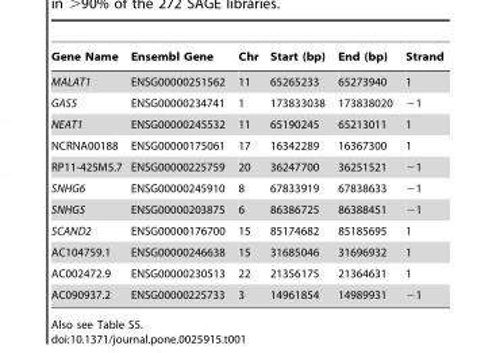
<table><thead><tr><td>Gene Name</td><td>Ensembl Gene</td><td>Chr</td><td>Start (bp)</td><td>End (bp)</td><td>Strand</td></tr></thead><tbody><tr><td>MALAT1</td><td>ENSG00000251562</td><td>11</td><td>65265233</td><td>65273940</td><td>1</td></tr><tr><td>GAS5</td><td>ENSG00000234741</td><td>1</td><td>173833038</td><td>173838020</td><td>−1</td></tr><tr><td>NEAT1</td><td>ENSG00000245532</td><td>11</td><td>65190245</td><td>65213011</td><td>1</td></tr><tr><td>NCRNA00188</td><td>ENSG00000175061</td><td>17</td><td>16342289</td><td>16367300</td><td>1</td></tr><tr><td>RP11-425M5.7</td><td>ENSG00000225759</td><td>20</td><td>36247700</td><td>36251521</td><td>−1</td></tr><tr><td>SNHG6</td><td>ENSG00000245910</td><td>8</td><td>67833919</td><td>67838633</td><td>−1</td></tr><tr><td>SNHG5</td><td>ENSG00000203875</td><td>6</td><td>86386725</td><td>86388451</td><td>−1</td></tr><tr><td>SCAND2</td><td>ENSG00000176700</td><td>15</td><td>85174682</td><td>85185695</td><td>1</td></tr><tr><td>AC104759.1</td><td>ENSG00000246638</td><td>15</td><td>31685046</td><td>31696932</td><td>1</td></tr><tr><td>AC002472.9</td><td>ENSG00000230513</td><td>22</td><td>21356175</td><td>21364631</td><td>1</td></tr><tr><td>AC090937.2</td><td>ENSG00000225733</td><td>3</td><td>14961854</td><td>14989931</td><td>−1</td></tr></tbody></table>